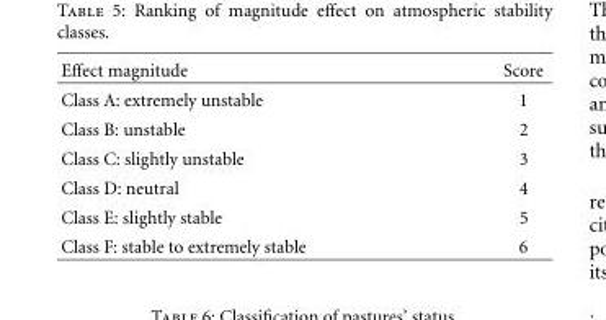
<table><thead><tr><td>Effect magnitude</td><td>Score</td></tr></thead><tbody><tr><td>Class A: extremely unstable</td><td>1</td></tr><tr><td>Class B: unstable</td><td>2</td></tr><tr><td>Class C: slightly unstable</td><td>3</td></tr><tr><td>Class D: neutral</td><td>4</td></tr><tr><td>Class E: slightly stable</td><td>5</td></tr><tr><td>Class F: stable to extremely stable</td><td>6</td></tr></tbody></table>